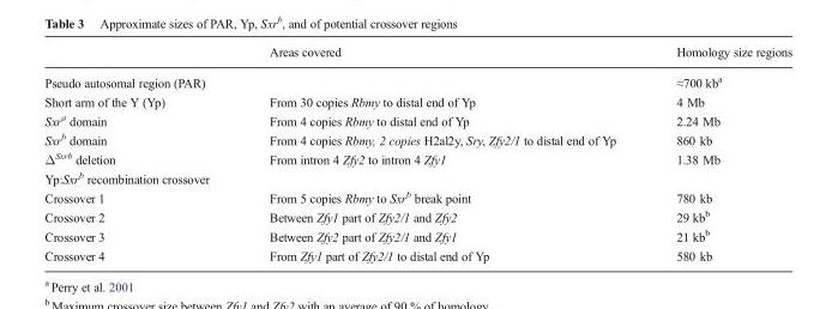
<table><thead><tr><td></td><td>Areas covered</td><td>Homology size regions</td></tr></thead><tbody><tr><td>Pseudo autosomal region (PAR)</td><td></td><td>≈700 kb<sup>a</sup></td></tr><tr><td>Short arm of the Y (Yp)</td><td>From 30 copies Rbmy to distal end of Yp</td><td>4 Mb</td></tr><tr><td>Sxr<sup>a</sup> domain</td><td>From 4 copies Rbmy to distal end of Yp</td><td>2.24 Mb</td></tr><tr><td>Sxr<sup>b</sup> domain</td><td>From 4 copies Rbmy, 2 copies H2al2y, Sry, Zfy2/1 to distal end of Yp</td><td>860 kb</td></tr><tr><td>Δ<sup>Sxrb</sup> deletion</td><td>From intron 4 Zfy2 to intron 4 Zfy1</td><td>1.38 Mb</td></tr><tr><td colspan="3">Yp:Sxr<sup>b</sup> recombination crossover</td></tr><tr><td>Crossover 1</td><td>From 5 copies Rbmy to Sxr<sup>b</sup> break point</td><td>780 kb</td></tr><tr><td>Crossover 2</td><td>Between Zfy1 part of Zfy2/1 and Zfy2</td><td>29 kb<sup>b</sup></td></tr><tr><td>Crossover 3</td><td>Between Zfy2 part of Zfy2/1 and Zfy1</td><td>21 kb<sup>b</sup></td></tr><tr><td>Crossover 4</td><td>From Zfy1 part of Zfy2/1 to distal end of Yp</td><td>580 kb</td></tr></tbody></table>